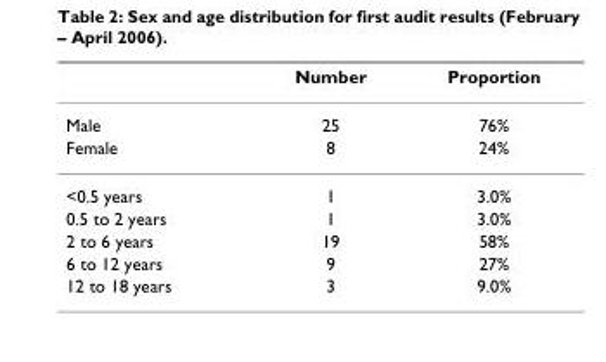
<table><thead><tr><td></td><td>Number</td><td>Proportion</td></tr></thead><tbody><tr><td>Male</td><td>25</td><td>76%</td></tr><tr><td>Female</td><td>8</td><td>24%</td></tr><tr><td>&lt;0.5 years</td><td>1</td><td>3.0%</td></tr><tr><td>0.5 to 2 years</td><td>1</td><td>3.0%</td></tr><tr><td>2 to 6 years</td><td>19</td><td>58%</td></tr><tr><td>6 to 12 years</td><td>9</td><td>27%</td></tr><tr><td>12 to 18 years</td><td>3</td><td>9.0%</td></tr></tbody></table>